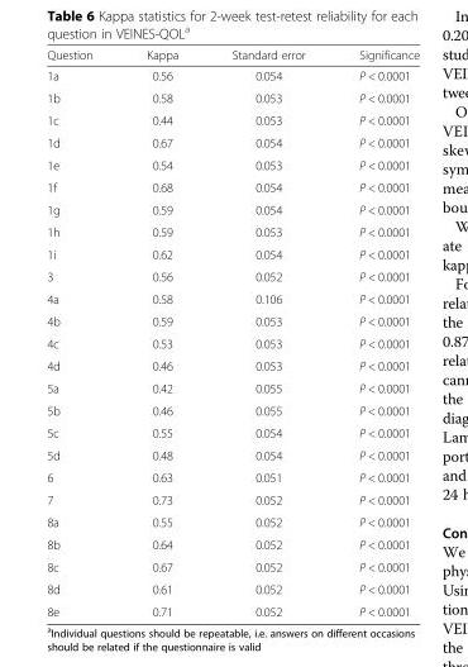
<table><thead><tr><td>Question</td><td>Kappa</td><td>Standard error</td><td>Significance</td></tr></thead><tbody><tr><td>1a</td><td>0.56</td><td>0.054</td><td>P &lt; 0.0001</td></tr><tr><td>1b</td><td>0.58</td><td>0.053</td><td>P &lt; 0.0001</td></tr><tr><td>1c</td><td>0.44</td><td>0.053</td><td>P &lt; 0.0001</td></tr><tr><td>1d</td><td>0.67</td><td>0.054</td><td>P &lt; 0.0001</td></tr><tr><td>1e</td><td>0.54</td><td>0.053</td><td>P &lt; 0.0001</td></tr><tr><td>1f</td><td>0.68</td><td>0.054</td><td>P &lt; 0.0001</td></tr><tr><td>1g</td><td>0.59</td><td>0.054</td><td>P &lt; 0.0001</td></tr><tr><td>1h</td><td>0.59</td><td>0.053</td><td>P &lt; 0.0001</td></tr><tr><td>1i</td><td>0.62</td><td>0.054</td><td>P &lt; 0.0001</td></tr><tr><td>3</td><td>0.56</td><td>0.052</td><td>P &lt; 0.0001</td></tr><tr><td>4a</td><td>0.58</td><td>0.106</td><td>P &lt; 0.0001</td></tr><tr><td>4b</td><td>0.59</td><td>0.053</td><td>P &lt; 0.0001</td></tr><tr><td>4c</td><td>0.53</td><td>0.053</td><td>P &lt; 0.0001</td></tr><tr><td>4d</td><td>0.46</td><td>0.053</td><td>P &lt; 0.0001</td></tr><tr><td>5a</td><td>0.42</td><td>0.055</td><td>P &lt; 0.0001</td></tr><tr><td>5b</td><td>0.46</td><td>0.055</td><td>P &lt; 0.0001</td></tr><tr><td>5c</td><td>0.55</td><td>0.054</td><td>P &lt; 0.0001</td></tr><tr><td>5d</td><td>0.48</td><td>0.054</td><td>P &lt; 0.0001</td></tr><tr><td>6</td><td>0.63</td><td>0.051</td><td>P &lt; 0.0001</td></tr><tr><td>7</td><td>0.73</td><td>0.052</td><td>P &lt; 0.0001</td></tr><tr><td>8a</td><td>0.55</td><td>0.052</td><td>P &lt; 0.0001</td></tr><tr><td>8b</td><td>0.64</td><td>0.052</td><td>P &lt; 0.0001</td></tr><tr><td>8c</td><td>0.67</td><td>0.052</td><td>P &lt; 0.0001</td></tr><tr><td>8d</td><td>0.61</td><td>0.052</td><td>P &lt; 0.0001</td></tr><tr><td>8e</td><td>0.71</td><td>0.052</td><td>P &lt; 0.0001</td></tr></tbody></table>